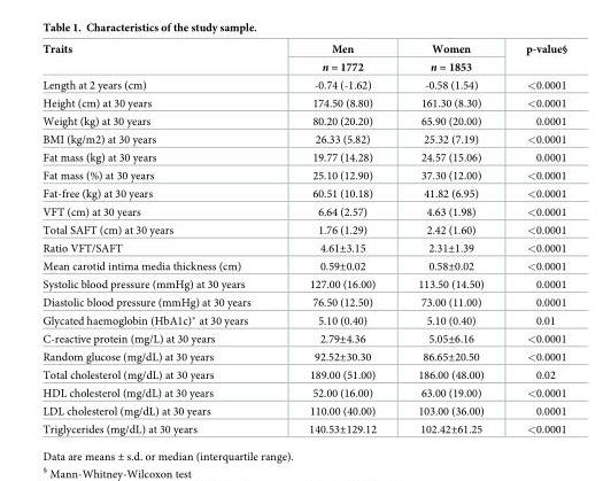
<table><thead><tr><td rowspan="2">Traits</td><td rowspan="2">Men n = 1772</td><td rowspan="2">Women n = 1853</td><td rowspan="2">p-value§</td></tr><tr></tr></thead><tbody><tr><td>Length at 2 years (cm)</td><td>-0.74 (-1.62)</td><td>-0.58 (1.54)</td><td>&lt;0.0001</td></tr><tr><td>Height (cm) at 30 years</td><td>174.50 (8.80)</td><td>161.30 (8.30)</td><td>&lt;0.0001</td></tr><tr><td>Weight (kg) at 30 years</td><td>80.20 (20.20)</td><td>65.90 (20.00)</td><td>0.0001</td></tr><tr><td>BMI (kg/m2) at 30 years</td><td>26.33 (5.82)</td><td>25.32 (7.19)</td><td>&lt;0.0001</td></tr><tr><td>Fat mass (kg) at 30 years</td><td>19.77 (14.28)</td><td>24.57 (15.06)</td><td>0.0001</td></tr><tr><td>Fat mass (%) at 30 years</td><td>25.10 (12.90)</td><td>37.30 (12.00)</td><td>&lt;0.0001</td></tr><tr><td>Fat-free (kg) at 30 years</td><td>60.51 (10.18)</td><td>41.82 (6.95)</td><td>&lt;0.0001</td></tr><tr><td>VFT (cm) at 30 years</td><td>6.64 (2.57)</td><td>4.63 (1.98)</td><td>&lt;0.0001</td></tr><tr><td>Total SAFT (cm) at 30 years</td><td>1.76 (1.29)</td><td>2.42 (1.60)</td><td>&lt;0.0001</td></tr><tr><td>Ratio VFT/SAFT</td><td>4.61±3.15</td><td>2.31±1.39</td><td>&lt;0.0001</td></tr><tr><td>Mean carotid intima media thickness (cm)</td><td>0.59±0.02</td><td>0.58±0.02</td><td>&lt;0.0001</td></tr><tr><td>Systolic blood pressure (mmHg) at 30 years</td><td>127.00 (16.00)</td><td>113.50 (14.50)</td><td>0.0001</td></tr><tr><td>Diastolic blood pressure (mmHg) at 30 years</td><td>76.50 (12.50)</td><td>73.00 (11.00)</td><td>0.0001</td></tr><tr><td>Glycated haemoglobin (HbA1c)* at 30 years</td><td>5.10 (0.40)</td><td>5.10 (0.40)</td><td>0.01</td></tr><tr><td>C-reactive protein (mg/L) at 30 years</td><td>2.79±4.36</td><td>5.05±6.16</td><td>&lt;0.0001</td></tr><tr><td>Random glucose (mg/dL) at 30 years</td><td>92.52±30.30</td><td>86.65±20.50</td><td>&lt;0.0001</td></tr><tr><td>Total cholesterol (mg/dL) at 30 years</td><td>189.00 (51.00)</td><td>186.00 (48.00)</td><td>0.02</td></tr><tr><td>HDL cholesterol (mg/dL) at 30 years</td><td>52.00 (16.00)</td><td>63.00 (19.00)</td><td>&lt;0.0001</td></tr><tr><td>LDL cholesterol (mg/dL) at 30 years</td><td>110.00 (40.00)</td><td>103.00 (36.00)</td><td>0.0001</td></tr><tr><td>Triglycerides (mg/dL) at 30 years</td><td>140.53±129.12</td><td>102.42±61.25</td><td>&lt;0.0001</td></tr></tbody></table>